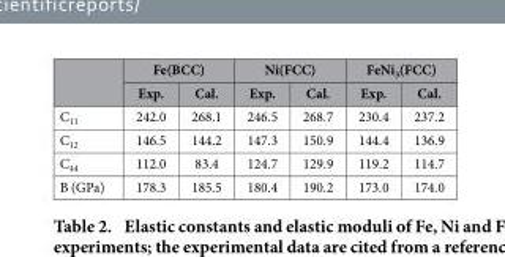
<table><thead><tr><td rowspan="2"></td><td colspan="2">Fe(BCC)</td><td colspan="2">Ni(FCC)</td><td colspan="2">FeNi<sub>3</sub>(FCC)</td></tr><tr><td>Exp.</td><td>Cal.</td><td>Exp.</td><td>Cal.</td><td>Exp.</td><td>Cal.</td></tr></thead><tbody><tr><td>C<sub>11</sub></td><td>242.0</td><td>268.1</td><td>246.5</td><td>268.7</td><td>230.4</td><td>237.2</td></tr><tr><td>C<sub>12</sub></td><td>146.5</td><td>144.2</td><td>147.3</td><td>150.9</td><td>144.4</td><td>136.9</td></tr><tr><td>C<sub>44</sub></td><td>112.0</td><td>83.4</td><td>124.7</td><td>129.9</td><td>119.2</td><td>114.7</td></tr><tr><td>B (GPa)</td><td>178.3</td><td>185.5</td><td>180.4</td><td>190.2</td><td>173.0</td><td>174.0</td></tr></tbody></table>